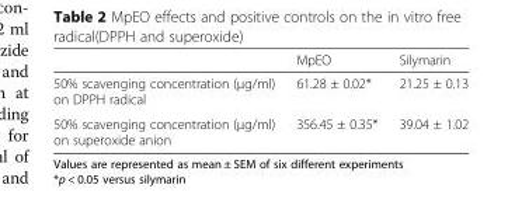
<table><thead><tr><td></td><td>MpEO</td><td>Silymarin</td></tr></thead><tbody><tr><td>50% scavenging concentration (μg/ml) on DPPH radical</td><td>61.28 ± 0.02*</td><td>21.25 ± 0.13</td></tr><tr><td>50% scavenging concentration (μg/ml) on superoxide anion</td><td>356.45 ± 0.35*</td><td>39.04 ± 1.02</td></tr></tbody></table>